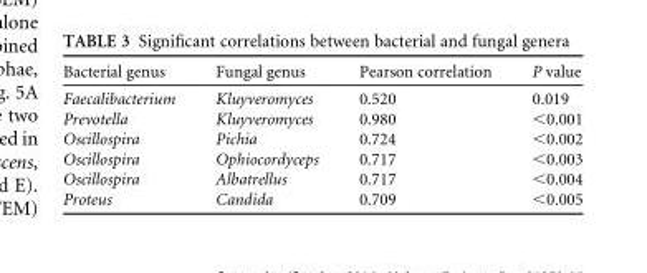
<table><thead><tr><td>Bacterial genus</td><td>Fungal genus</td><td>Pearson correlation</td><td>P value</td></tr></thead><tbody><tr><td>Faecalibacterium</td><td>Kluyveromyces</td><td>0.520</td><td>0.019</td></tr><tr><td>Prevotella</td><td>Kluyveromyces</td><td>0.980</td><td>&lt;0.001</td></tr><tr><td>Oscillospira</td><td>Pichia</td><td>0.724</td><td>&lt;0.002</td></tr><tr><td>Oscillospira</td><td>Ophiocordyceps</td><td>0.717</td><td>&lt;0.003</td></tr><tr><td>Oscillospira</td><td>Albatrellus</td><td>0.717</td><td>&lt;0.004</td></tr><tr><td>Proteus</td><td>Candida</td><td>0.709</td><td>&lt;0.005</td></tr></tbody></table>